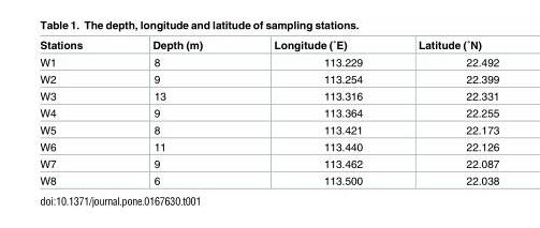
<table><thead><tr><td>Stations</td><td>Depth (m)</td><td>Longitude (˚E)</td><td>Latitude (˚N)</td></tr></thead><tbody><tr><td>W1</td><td>8</td><td>113.229</td><td>22.492</td></tr><tr><td>W2</td><td>9</td><td>113.254</td><td>22.399</td></tr><tr><td>W3</td><td>13</td><td>113.316</td><td>22.331</td></tr><tr><td>W4</td><td>9</td><td>113.364</td><td>22.255</td></tr><tr><td>W5</td><td>8</td><td>113.421</td><td>22.173</td></tr><tr><td>W6</td><td>11</td><td>113.440</td><td>22.126</td></tr><tr><td>W7</td><td>9</td><td>113.462</td><td>22.087</td></tr><tr><td>W8</td><td>6</td><td>113.500</td><td>22.038</td></tr></tbody></table>